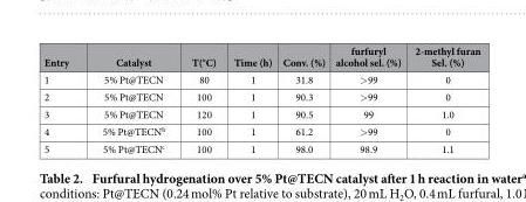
<table><thead><tr><td>Entry</td><td>Catalyst</td><td>T(°C)</td><td>Time (h)</td><td>Conv. (%)</td><td>furfuryl alcohol sel. (%)</td><td>2-methyl furan Sel. (%)</td></tr></thead><tbody><tr><td>1</td><td>5% Pt@TECN</td><td>80</td><td>1</td><td>31.8</td><td>&gt;99</td><td>0</td></tr><tr><td>2</td><td>5% Pt@TECN</td><td>100</td><td>1</td><td>90.3</td><td>&gt;99</td><td>0</td></tr><tr><td>3</td><td>5% Pt@TECN</td><td>120</td><td>1</td><td>90.5</td><td>99</td><td>1.0</td></tr><tr><td>4</td><td>5% Pt@TECN<sup>b</sup></td><td>100</td><td>1</td><td>61.2</td><td>&gt;99</td><td>0</td></tr><tr><td>5</td><td>5% Pt@TECN<sup>c</sup></td><td>100</td><td>1</td><td>98.0</td><td>98.9</td><td>1.1</td></tr></tbody></table>